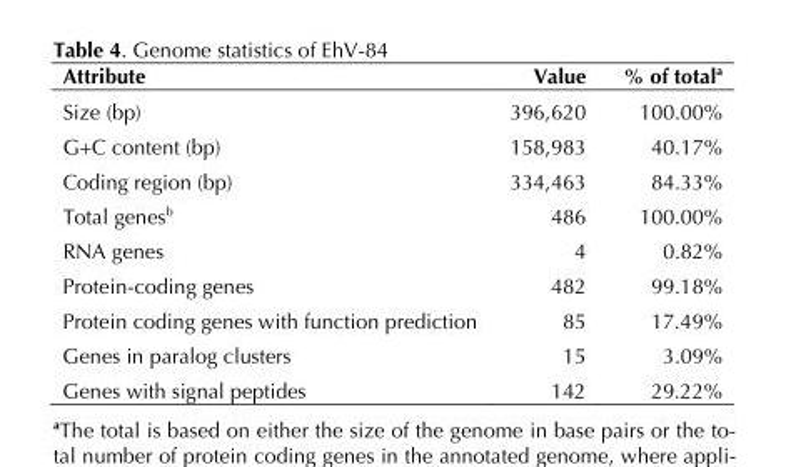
<table><thead><tr><td>Attribute</td><td>Value</td><td>% of total<sup>a</sup></td></tr></thead><tbody><tr><td>Size (bp)</td><td>396,620</td><td>100.00%</td></tr><tr><td>G+C content (bp)</td><td>158,983</td><td>40.17%</td></tr><tr><td>Coding region (bp)</td><td>334,463</td><td>84.33%</td></tr><tr><td>Total genes<sup>b</sup></td><td>486</td><td>100.00%</td></tr><tr><td>RNA genes</td><td>4</td><td>0.82%</td></tr><tr><td>Protein-coding genes</td><td>482</td><td>99.18%</td></tr><tr><td>Protein coding genes with function prediction</td><td>85</td><td>17.49%</td></tr><tr><td>Genes in paralog clusters</td><td>15</td><td>3.09%</td></tr><tr><td>Genes with signal peptides</td><td>142</td><td>29.22%</td></tr></tbody></table>